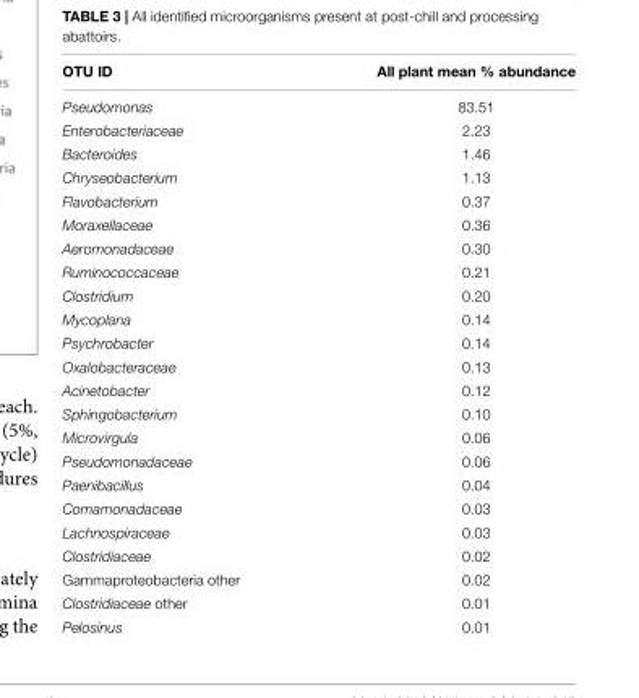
<table><thead><tr><td>OTU ID</td><td>All plant mean % abundance</td></tr></thead><tbody><tr><td>Pseudomonas</td><td>83.51</td></tr><tr><td>Enterobacteriaceae</td><td>2.23</td></tr><tr><td>Bacteroides</td><td>1.46</td></tr><tr><td>Chryseobacterium</td><td>1.13</td></tr><tr><td>Flavobacterium</td><td>0.37</td></tr><tr><td>Moraxellaceae</td><td>0.36</td></tr><tr><td>Aeromonadaceae</td><td>0.30</td></tr><tr><td>Ruminococcaceae</td><td>0.21</td></tr><tr><td>Clostridium</td><td>0.20</td></tr><tr><td>Mycoplana</td><td>0.14</td></tr><tr><td>Psychrobacter</td><td>0.14</td></tr><tr><td>Oxalobacteraceae</td><td>0.13</td></tr><tr><td>Acinetobacter</td><td>0.12</td></tr><tr><td>Sphingobacterium</td><td>0.10</td></tr><tr><td>Microvirgula</td><td>0.06</td></tr><tr><td>Pseudomonadaceae</td><td>0.06</td></tr><tr><td>Paenibacillus</td><td>0.04</td></tr><tr><td>Comamonadaceae</td><td>0.03</td></tr><tr><td>Lachnospiraceae</td><td>0.03</td></tr><tr><td>Clostridiaceae</td><td>0.02</td></tr><tr><td>Gammaproteobacteria other</td><td>0.02</td></tr><tr><td>Clostridiaceae other</td><td>0.01</td></tr><tr><td>Pelosinus</td><td>0.01</td></tr></tbody></table>